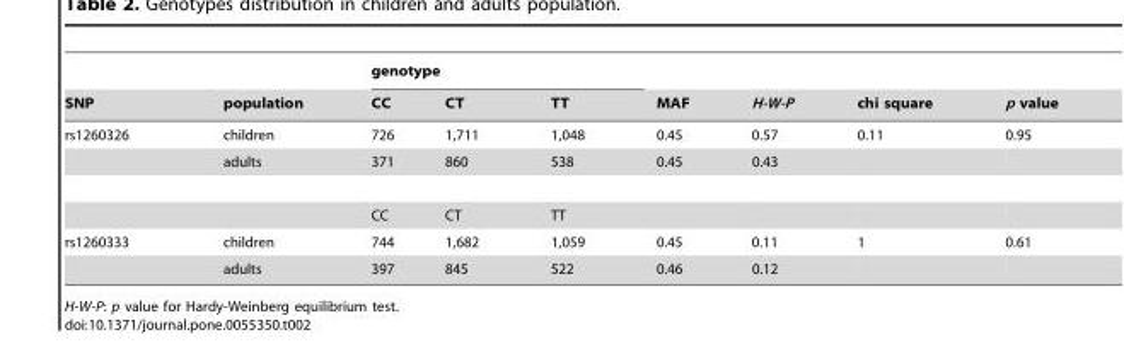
<table><thead><tr><td rowspan="2">SNP</td><td rowspan="2">population</td><td colspan="3">genotype</td><td rowspan="2">MAF</td><td rowspan="2">H-W-P</td><td rowspan="2">chi square</td><td rowspan="2">p value</td></tr><tr><td>CC</td><td>CT</td><td>TT</td></tr></thead><tbody><tr><td rowspan="3">rs1260326</td><td>children</td><td>726</td><td>1,711</td><td>1,048</td><td>0.45</td><td>0.57</td><td>0.11</td><td>0.95</td></tr><tr><td>adults</td><td>371</td><td>860</td><td>538</td><td>0.45</td><td>0.43</td><td></td><td></td></tr><tr><td></td><td>CC</td><td>CT</td><td>TT</td><td></td><td></td><td></td><td></td></tr><tr><td rowspan="2">rs1260333</td><td>children</td><td>744</td><td>1,682</td><td>1,059</td><td>0.45</td><td>0.11</td><td>1</td><td>0.61</td></tr><tr><td>adults</td><td>397</td><td>845</td><td>522</td><td>0.46</td><td>0.12</td><td></td><td></td></tr></tbody></table>